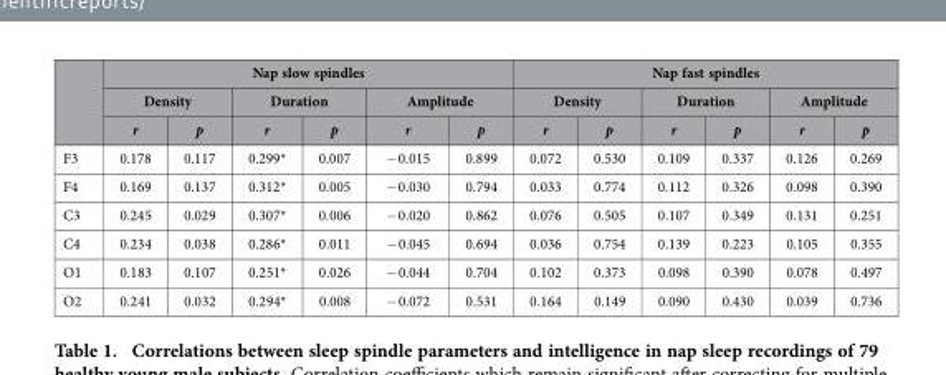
<table><thead><tr><td rowspan="3"></td><td colspan="6">Nap slow spindles</td><td colspan="6">Nap fast spindles</td></tr><tr><td colspan="2">Density</td><td colspan="2">Duration</td><td colspan="2">Amplitude</td><td colspan="2">Density</td><td colspan="2">Duration</td><td colspan="2">Amplitude</td></tr><tr><td>r</td><td>p</td><td>r</td><td>p</td><td>r</td><td>p</td><td>r</td><td>p</td><td>r</td><td>p</td><td>r</td><td>p</td></tr></thead><tbody><tr><td>F3</td><td>0.178</td><td>0.117</td><td>0.299*</td><td>0.007</td><td>− 0.015</td><td>0.899</td><td>0.072</td><td>0.530</td><td>0.109</td><td>0.337</td><td>0.126</td><td>0.269</td></tr><tr><td>F4</td><td>0.169</td><td>0.137</td><td>0.312*</td><td>0.005</td><td>− 0.030</td><td>0.794</td><td>0.033</td><td>0.774</td><td>0.112</td><td>0.326</td><td>0.098</td><td>0.390</td></tr><tr><td>C3</td><td>0.245</td><td>0.029</td><td>0.307*</td><td>0.006</td><td>− 0.020</td><td>0.862</td><td>0.076</td><td>0.505</td><td>0.107</td><td>0.349</td><td>0.131</td><td>0.251</td></tr><tr><td>C4</td><td>0.234</td><td>0.038</td><td>0.286*</td><td>0.011</td><td>− 0.045</td><td>0.694</td><td>0.036</td><td>0.754</td><td>0.139</td><td>0.223</td><td>0.105</td><td>0.355</td></tr><tr><td>O1</td><td>0.183</td><td>0.107</td><td>0.251*</td><td>0.026</td><td>− 0.044</td><td>0.704</td><td>0.102</td><td>0.373</td><td>0.098</td><td>0.390</td><td>0.078</td><td>0.497</td></tr><tr><td>O2</td><td>0.241</td><td>0.032</td><td>0.294*</td><td>0.008</td><td>− 0.072</td><td>0.531</td><td>0.164</td><td>0.149</td><td>0.090</td><td>0.430</td><td>0.039</td><td>0.736</td></tr></tbody></table>